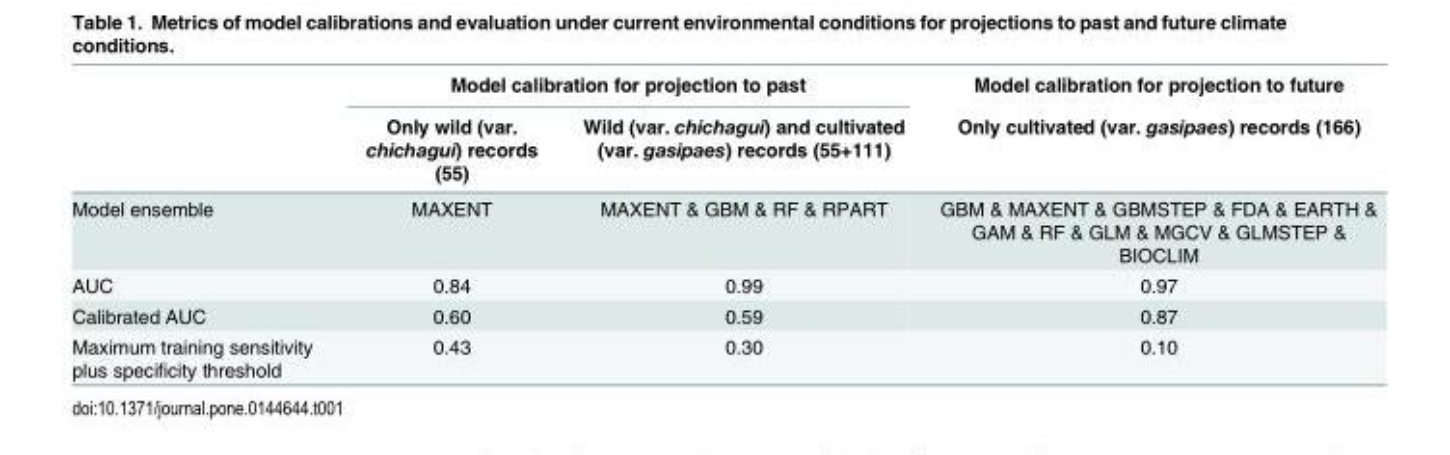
<table><thead><tr><td rowspan="2"></td><td colspan="2">Model calibration for projection to past</td><td rowspan="2">Model calibration for projection to future Only cultivated (var. gasipaes) records (166)</td></tr><tr><td>Only wild (var. chichagui) records (55)</td><td>Wild (var. chichagui) and cultivated (var. gasipaes) records (55+111)</td></tr></thead><tbody><tr><td>Model ensemble</td><td>MAXENT</td><td>MAXENT &amp; GBM &amp; RF &amp; RPART</td><td>GBM &amp; MAXENT &amp; GBMSTEP &amp; FDA &amp; EARTH &amp; GAM &amp; RF &amp; GLM &amp; MGCV &amp; GLMSTEP &amp; BIOCLIM</td></tr><tr><td>AUC</td><td>0.84</td><td>0.99</td><td>0.97</td></tr><tr><td>Calibrated AUC</td><td>0.60</td><td>0.59</td><td>0.87</td></tr><tr><td>Maximum training sensitivity plus specificity threshold</td><td>0.43</td><td>0.30</td><td>0.10</td></tr></tbody></table>